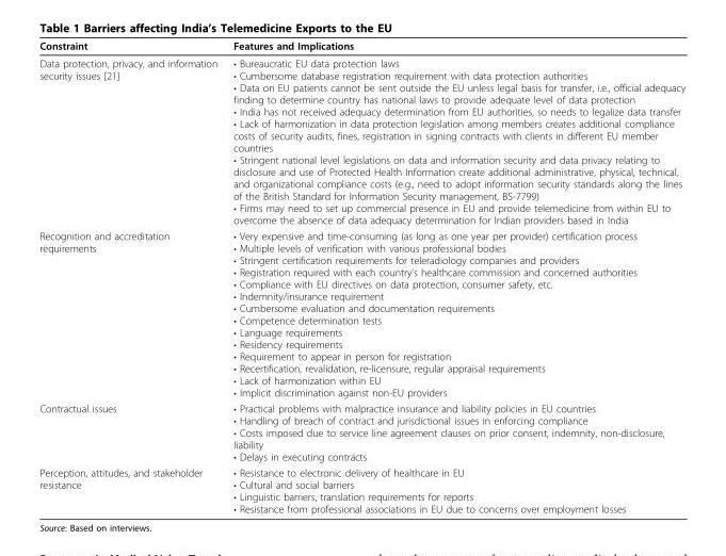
<table><thead><tr><td>Constraint</td><td>Features and Implications</td></tr></thead><tbody><tr><td>Data protection, privacy, and information security issues [21]</td><td>• Bureaucratic EU data protection laws • Cumbersome database registration requirement with data protection authorities • Data on EU patients cannot be sent outside the EU unless legal basis for transfer, i.e., official adequacy finding to determine country has national laws to provide adequate level of data protection • India has not received adequacy determination from EU authorities, so needs to legalize data transfer • Lack of harmonization in data protection legislation among members creates additional compliance costs of security audits, fines, registration in signing contracts with clients in different EU member countries • Stringent national level legislations on data and information security and data privacy relating to disclosure and use of Protected Health Information create additional administrative, physical, technical, and organizational compliance costs (e.g., need to adopt information security standards along the lines of the British Standard for Information Security management, BS-7799) • Firms may need to set up commercial presence in EU and provide telemedicine from within EU to overcome the absence of data adequacy determination for Indian providers based in India</td></tr><tr><td>Recognition and accreditation requirements</td><td>• Very expensive and time-consuming (as long as one year per provider) certification process • Multiple levels of verification with various professional bodies • Stringent certification requirements for teleradiology companies and providers • Registration required with each country’s healthcare commission and concerned authorities • Compliance with EU directives on data protection, consumer safety, etc. • Indemnity/insurance requirement • Cumbersome evaluation and documentation requirements • Competence determination tests • Language requirements • Residency requirements • Requirement to appear in person for registration • Recertification, revalidation, re-licensure, regular appraisal requirements • Lack of harmonization within EU • Implicit discrimination against non-EU providers</td></tr><tr><td>Contractual issues</td><td>• Practical problems with malpractice insurance and liability policies in EU countries • Handling of breach of contract and jurisdictional issues in enforcing compliance • Costs imposed due to service line agreement clauses on prior consent, indemnity, non-disclosure, liability • Delays in executing contracts</td></tr><tr><td>Perception, attitudes, and stakeholder resistance</td><td>• Resistance to electronic delivery of healthcare in EU • Cultural and social barriers • Linguistic barriers, translation requirements for reports • Resistance from professional associations in EU due to concerns over employment losses</td></tr></tbody></table>